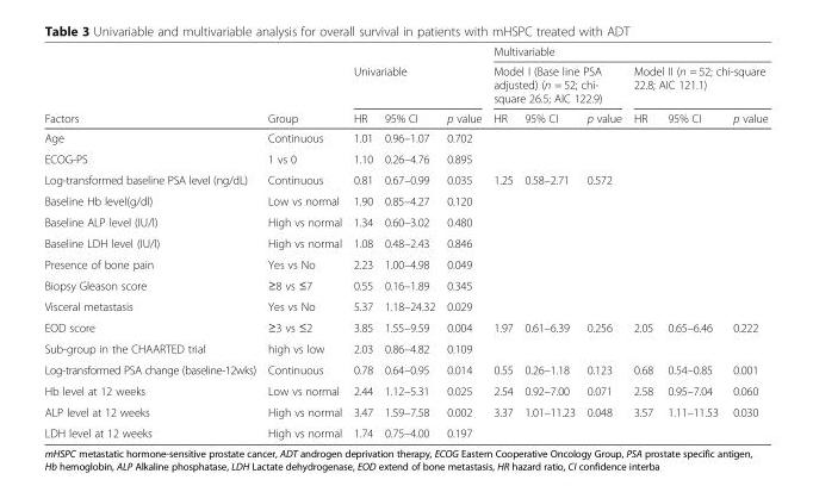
<table><thead><tr><td rowspan="3">Factors</td><td rowspan="3">Group</td><td></td><td></td><td></td><td colspan="6">Multivariable</td></tr><tr><td colspan="3">Univariable</td><td colspan="3">Model I (Base line PSA adjusted) (n = 52; chi- square 26.5; AIC 122.9)</td><td colspan="3">Model II (n = 52; chi-square 22.8; AIC 121.1)</td></tr><tr><td>HR</td><td>95% CI</td><td>p value</td><td>HR</td><td>95% CI</td><td>p value</td><td>HR</td><td>95% CI</td><td>p value</td></tr></thead><tbody><tr><td>Age</td><td>Continuous</td><td>1.01</td><td>0.96–1.07</td><td>0.702</td><td></td><td></td><td></td><td></td><td></td><td></td></tr><tr><td>ECOG-PS</td><td>1 vs 0</td><td>1.10</td><td>0.26–4.76</td><td>0.895</td><td></td><td></td><td></td><td></td><td></td><td></td></tr><tr><td>Log-transformed baseline PSA level (ng/dL)</td><td>Continuous</td><td>0.81</td><td>0.67–0.99</td><td>0.035</td><td>1.25</td><td>0.58–2.71</td><td>0.572</td><td></td><td></td><td></td></tr><tr><td>Baseline Hb level(g/dl)</td><td>Low vs normal</td><td>1.90</td><td>0.85–4.27</td><td>0.120</td><td></td><td></td><td></td><td></td><td></td><td></td></tr><tr><td>Baseline ALP level (IU/l)</td><td>High vs normal</td><td>1.34</td><td>0.60–3.02</td><td>0.480</td><td></td><td></td><td></td><td></td><td></td><td></td></tr><tr><td>Baseline LDH level (IU/l)</td><td>High vs normal</td><td>1.08</td><td>0.48–2.43</td><td>0.846</td><td></td><td></td><td></td><td></td><td></td><td></td></tr><tr><td>Presence of bone pain</td><td>Yes vs No</td><td>2.23</td><td>1.00–4.98</td><td>0.049</td><td></td><td></td><td></td><td></td><td></td><td></td></tr><tr><td>Biopsy Gleason score</td><td>≥8 vs ≤7</td><td>0.55</td><td>0.16–1.89</td><td>0.345</td><td></td><td></td><td></td><td></td><td></td><td></td></tr><tr><td>Visceral metastasis</td><td>Yes vs No</td><td>5.37</td><td>1.18–24.32</td><td>0.029</td><td></td><td></td><td></td><td></td><td></td><td></td></tr><tr><td>EOD score</td><td>≥3 vs ≤2</td><td>3.85</td><td>1.55–9.59</td><td>0.004</td><td>1.97</td><td>0.61–6.39</td><td>0.256</td><td>2.05</td><td>0.65–6.46</td><td>0.222</td></tr><tr><td>Sub-group in the CHAARTED trial</td><td>high vs low</td><td>2.03</td><td>0.86–4.82</td><td>0.109</td><td></td><td></td><td></td><td></td><td></td><td></td></tr><tr><td>Log-transformed PSA change (baseline-12wks)</td><td>Continuous</td><td>0.78</td><td>0.64–0.95</td><td>0.014</td><td>0.55</td><td>0.26–1.18</td><td>0.123</td><td>0.68</td><td>0.54–0.85</td><td>0.001</td></tr><tr><td>Hb level at 12 weeks</td><td>Low vs normal</td><td>2.44</td><td>1.12–5.31</td><td>0.025</td><td>2.54</td><td>0.92–7.00</td><td>0.071</td><td>2.58</td><td>0.95–7.04</td><td>0.060</td></tr><tr><td>ALP level at 12 weeks</td><td>High vs normal</td><td>3.47</td><td>1.59–7.58</td><td>0.002</td><td>3.37</td><td>1.01–11.23</td><td>0.048</td><td>3.57</td><td>1.11–11.53</td><td>0.030</td></tr><tr><td>LDH level at 12 weeks</td><td>High vs normal</td><td>1.74</td><td>0.75–4.00</td><td>0.197</td><td></td><td></td><td></td><td></td><td></td><td></td></tr></tbody></table>